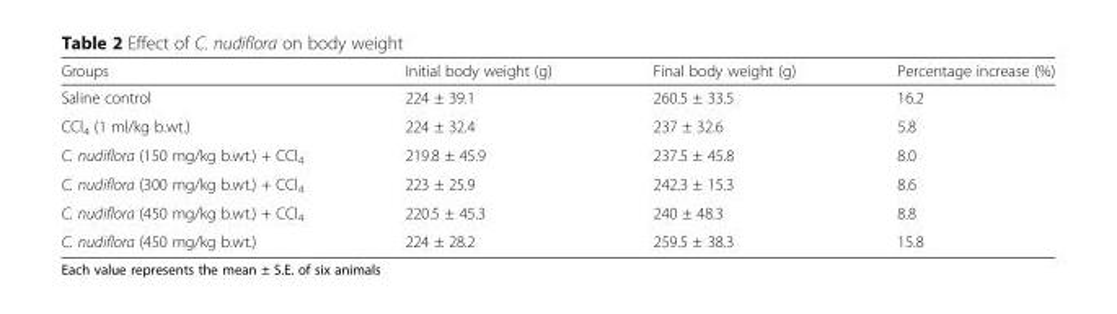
<table><thead><tr><td>Groups</td><td>Initial body weight (g)</td><td>Final body weight (g)</td><td>Percentage increase (%)</td></tr></thead><tbody><tr><td>Saline control</td><td>224 ± 39.1</td><td>260.5 ± 33.5</td><td>16.2</td></tr><tr><td>CCl<sub>4</sub> (1 ml/kg b.wt.)</td><td>224 ± 32.4</td><td>237 ± 32.6</td><td>5.8</td></tr><tr><td>C. nudiflora (150 mg/kg b.wt.) + CCl<sub>4</sub></td><td>219.8 ± 45.9</td><td>237.5 ± 45.8</td><td>8.0</td></tr><tr><td>C. nudiflora (300 mg/kg b.wt.) + CCl<sub>4</sub></td><td>223 ± 25.9</td><td>242.3 ± 15.3</td><td>8.6</td></tr><tr><td>C. nudiflora (450 mg/kg b.wt.) + CCl<sub>4</sub></td><td>220.5 ± 45.3</td><td>240 ± 48.3</td><td>8.8</td></tr><tr><td>C. nudiflora (450 mg/kg b.wt.)</td><td>224 ± 28.2</td><td>259.5 ± 38.3</td><td>15.8</td></tr></tbody></table>